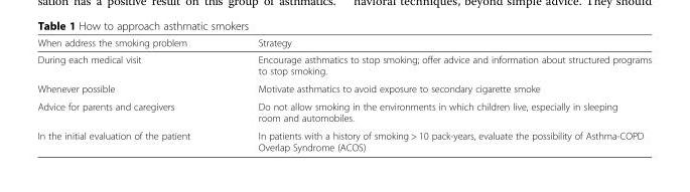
<table><thead><tr><td>When address the smoking problem</td><td>Strategy</td></tr></thead><tbody><tr><td>During each medical visit</td><td>Encourage asthmatics to stop smoking; offer advice and information about structured programs to stop smoking.</td></tr><tr><td>Whenever possible</td><td>Motivate asthmatics to avoid exposure to secondary cigarette smoke</td></tr><tr><td>Advice for parents and caregivers</td><td>Do not allow smoking in the environments in which children live, especially in sleeping room and automobiles.</td></tr><tr><td>In the initial evaluation of the patient</td><td>In patients with a history of smoking &gt; 10 pack-years, evaluate the possibility of Asthma-COPD Overlap Syndrome (ACOS)</td></tr></tbody></table>